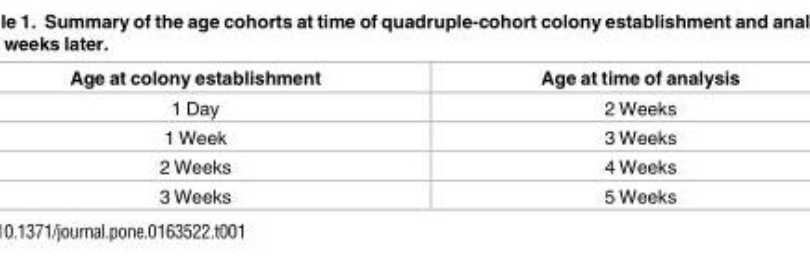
<table><thead><tr><td>Age at colony establishment</td><td>Age at time of analysis</td></tr></thead><tbody><tr><td>1 Day</td><td>2 Weeks</td></tr><tr><td>1 Week</td><td>3 Weeks</td></tr><tr><td>2 Weeks</td><td>4 Weeks</td></tr><tr><td>3 Weeks</td><td>5 Weeks</td></tr></tbody></table>